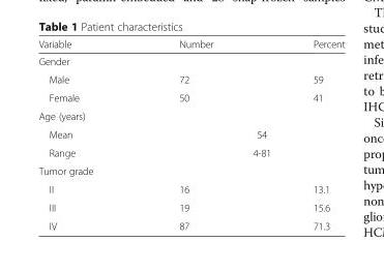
<table><thead><tr><td>Variable</td><td>Number</td><td>Percent</td></tr></thead><tbody><tr><td colspan="3">Gender</td></tr><tr><td>Male</td><td>72</td><td>59</td></tr><tr><td>Female</td><td>50</td><td>41</td></tr><tr><td colspan="3">Age (years)</td></tr><tr><td>Mean</td><td colspan="2">54</td></tr><tr><td>Range</td><td colspan="2">4-81</td></tr><tr><td colspan="3">Tumor grade</td></tr><tr><td>II</td><td>16</td><td>13.1</td></tr><tr><td>III</td><td>19</td><td>15.6</td></tr><tr><td>IV</td><td>87</td><td>71.3</td></tr></tbody></table>